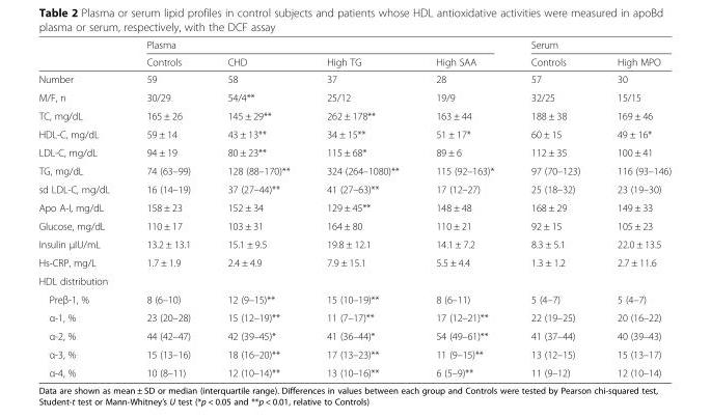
<table><thead><tr><td rowspan="2"></td><td colspan="4">Plasma</td><td colspan="2">Serum</td></tr><tr><td>Controls</td><td>CHD</td><td>High TG</td><td>High SAA</td><td>Controls</td><td>High MPO</td></tr></thead><tbody><tr><td>Number</td><td>59</td><td>58</td><td>37</td><td>28</td><td>57</td><td>30</td></tr><tr><td>M/F, n</td><td>30/29</td><td>54/4**</td><td>25/12</td><td>19/9</td><td>32/25</td><td>15/15</td></tr><tr><td>TC, mg/dL</td><td>165 ± 26</td><td>145 ± 29**</td><td>262 ± 178**</td><td>163 ± 44</td><td>188 ± 38</td><td>169 ± 46</td></tr><tr><td>HDL-C, mg/dL</td><td>59 ± 14</td><td>43 ± 13**</td><td>34 ± 15**</td><td>51 ± 17*</td><td>60 ± 15</td><td>49 ± 16*</td></tr><tr><td>LDL-C, mg/dL</td><td>94 ± 19</td><td>80 ± 23**</td><td>115 ± 68*</td><td>89 ± 6</td><td>112 ± 35</td><td>100 ± 41</td></tr><tr><td>TG, mg/dL</td><td>74 (63–99)</td><td>128 (88–170)**</td><td>324 (264–1080)**</td><td>115 (92–163)*</td><td>97 (70–123)</td><td>116 (93–146)</td></tr><tr><td>sd LDL-C, mg/dL</td><td>16 (14–19)</td><td>37 (27–44)**</td><td>41 (27–63)**</td><td>17 (12–27)</td><td>25 (18–32)</td><td>23 (19–30)</td></tr><tr><td>Apo A-I, mg/dL</td><td>158 ± 23</td><td>152 ± 34</td><td>129 ± 45**</td><td>148 ± 48</td><td>168 ± 29</td><td>149 ± 33</td></tr><tr><td>Glucose, mg/dL</td><td>110 ± 17</td><td>103 ± 31</td><td>164 ± 80</td><td>110 ± 21</td><td>92 ± 15</td><td>105 ± 23</td></tr><tr><td>Insulin μIU/mL</td><td>13.2 ± 13.1</td><td>15.1 ± 9.5</td><td>19.8 ± 12.1</td><td>14.1 ± 7.2</td><td>8.3 ± 5.1</td><td>22.0 ± 13.5</td></tr><tr><td>Hs-CRP, mg/L</td><td>1.7 ± 1.9</td><td>2.4 ± 4.9</td><td>7.9 ± 15.1</td><td>5.5 ± 4.4</td><td>1.3 ± 1.2</td><td>2.7 ± 11.6</td></tr><tr><td colspan="7">HDL distribution</td></tr><tr><td>Preβ-1, %</td><td>8 (6–10)</td><td>12 (9–15)**</td><td>15 (10–19)**</td><td>8 (6–11)</td><td>5 (4–7)</td><td>5 (4–7)</td></tr><tr><td>α-1, %</td><td>23 (20–28)</td><td>15 (12–19)**</td><td>11 (7–17)**</td><td>17 (12–21)**</td><td>22 (19–25)</td><td>20 (16–22)</td></tr><tr><td>α-2, %</td><td>44 (42–47)</td><td>42 (39–45)*</td><td>41 (36–44)*</td><td>54 (49–61)**</td><td>41 (37–44)</td><td>40 (39–43)</td></tr><tr><td>α-3, %</td><td>15 (13–16)</td><td>18 (16–20)**</td><td>17 (13–23)**</td><td>11 (9–15)**</td><td>13 (12–15)</td><td>15 (13–17)</td></tr><tr><td>α-4, %</td><td>10 (8–11)</td><td>12 (10–14)**</td><td>13 (10–16)**</td><td>6 (5–9)**</td><td>11 (9–12)</td><td>12 (10–14)</td></tr></tbody></table>